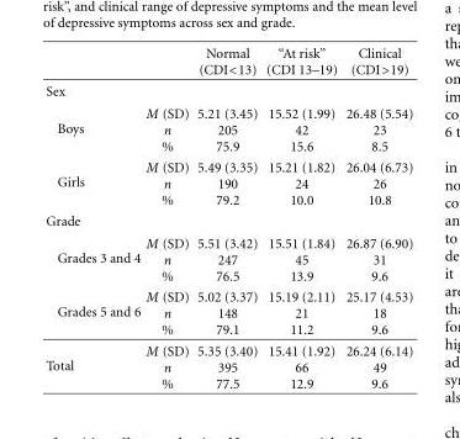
<table><thead><tr><td></td><td></td><td>Normal (CDI&lt;13)</td><td>“At risk” (CDI 13–19)</td><td>Clinical (CDI&gt;19)</td></tr></thead><tbody><tr><td colspan="5">Sex</td></tr><tr><td>Boys</td><td>M (SD) n %</td><td>5.21 (3.45) 205 75.9</td><td>15.52 (1.99) 42 15.6</td><td>26.48 (5.54) 23 8.5</td></tr><tr><td>Girls</td><td>M (SD) n %</td><td>5.49 (3.35) 190 79.2</td><td>15.21 (1.82) 24 10.0</td><td>26.04 (6.73) 26 10.8</td></tr><tr><td colspan="5">Grade</td></tr><tr><td>Grades 3 and 4</td><td>M (SD) n %</td><td>5.51 (3.42) 247 76.5</td><td>15.51 (1.84) 45 13.9</td><td>26.87 (6.90) 31 9.6</td></tr><tr><td>Grades 5 and 6</td><td>M (SD) n %</td><td>5.02 (3.37) 148 79.1</td><td>15.19 (2.11) 21 11.2</td><td>25.17 (4.53) 18 9.6</td></tr><tr><td>Total</td><td>M (SD) n %</td><td>5.35 (3.40) 395 77.5</td><td>15.41 (1.92) 66 12.9</td><td>26.24 (6.14) 49 9.6</td></tr></tbody></table>